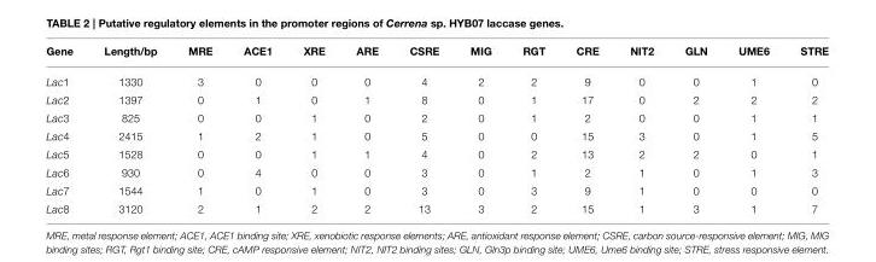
<table><thead><tr><td>Gene</td><td>Length/bp</td><td>MRE</td><td>ACE1</td><td>XRE</td><td>ARE</td><td>CSRE</td><td>MIG</td><td>RGT</td><td>CRE</td><td>NIT2</td><td>GLN</td><td>UME6</td><td>STRE</td></tr></thead><tbody><tr><td>Lac1</td><td>1330</td><td>3</td><td>0</td><td>0</td><td>0</td><td>4</td><td>2</td><td>2</td><td>9</td><td>0</td><td>0</td><td>1</td><td>0</td></tr><tr><td>Lac2</td><td>1397</td><td>0</td><td>1</td><td>0</td><td>1</td><td>8</td><td>0</td><td>1</td><td>17</td><td>0</td><td>2</td><td>2</td><td>2</td></tr><tr><td>Lac3</td><td>825</td><td>0</td><td>0</td><td>1</td><td>0</td><td>2</td><td>0</td><td>1</td><td>2</td><td>0</td><td>0</td><td>1</td><td>1</td></tr><tr><td>Lac4</td><td>2415</td><td>1</td><td>2</td><td>1</td><td>0</td><td>5</td><td>0</td><td>0</td><td>15</td><td>3</td><td>0</td><td>1</td><td>5</td></tr><tr><td>Lac5</td><td>1528</td><td>0</td><td>0</td><td>1</td><td>1</td><td>4</td><td>0</td><td>2</td><td>13</td><td>2</td><td>2</td><td>0</td><td>1</td></tr><tr><td>Lac6</td><td>930</td><td>0</td><td>4</td><td>0</td><td>0</td><td>3</td><td>0</td><td>1</td><td>2</td><td>1</td><td>0</td><td>1</td><td>3</td></tr><tr><td>Lac7</td><td>1544</td><td>1</td><td>0</td><td>1</td><td>0</td><td>3</td><td>0</td><td>3</td><td>9</td><td>1</td><td>0</td><td>0</td><td>0</td></tr><tr><td>Lac8</td><td>3120</td><td>2</td><td>1</td><td>2</td><td>2</td><td>13</td><td>3</td><td>2</td><td>15</td><td>1</td><td>3</td><td>1</td><td>7</td></tr></tbody></table>